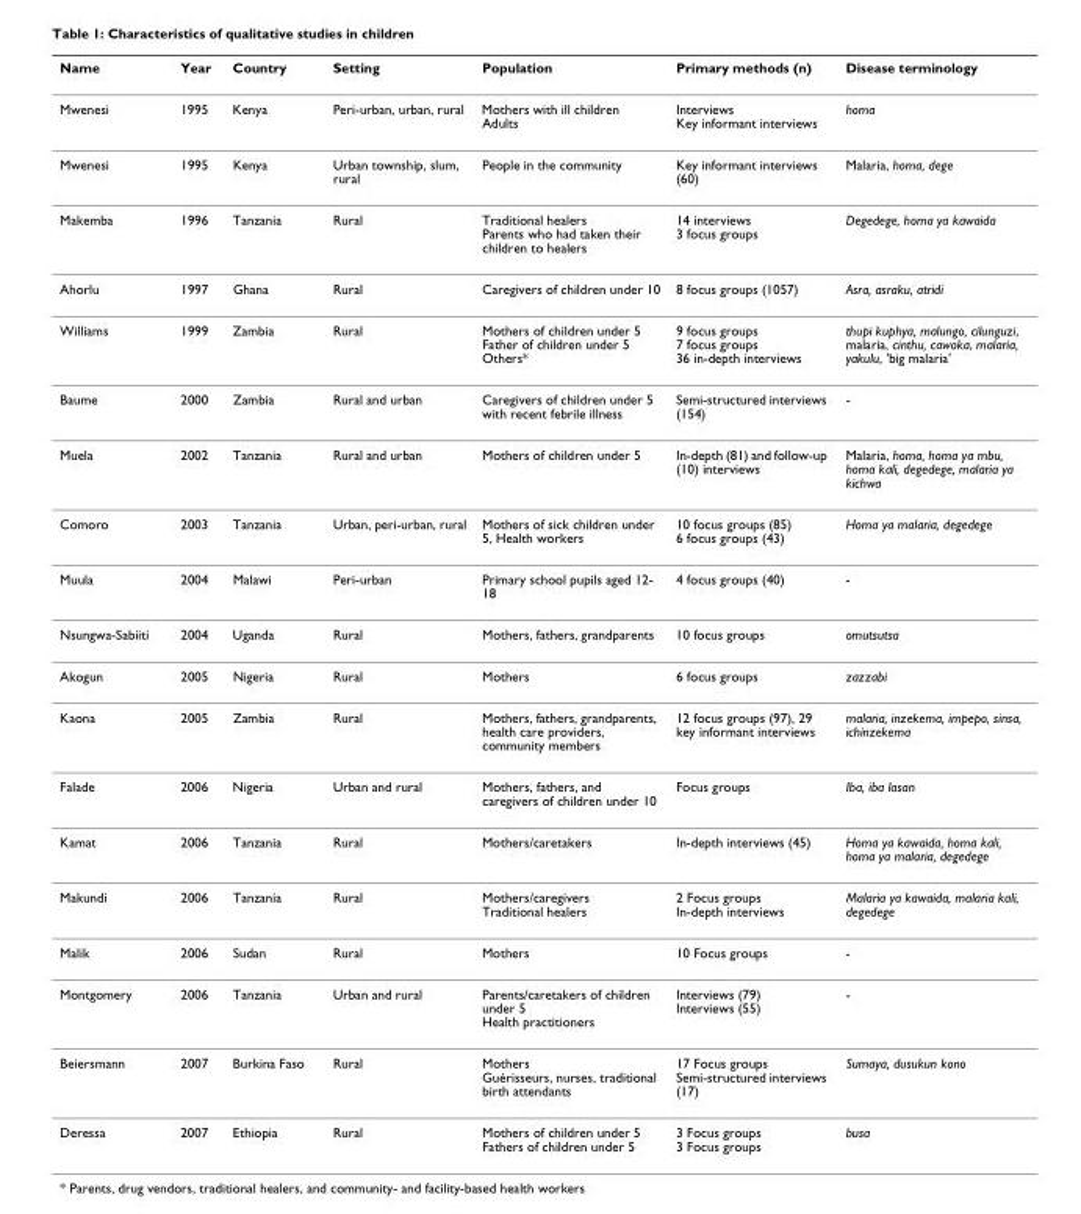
<table><thead><tr><td>Name</td><td>Year</td><td>Country</td><td>Setting</td><td>Population</td><td>Primary methods (n)</td><td>Disease terminology</td></tr></thead><tbody><tr><td>Mwenesi</td><td>1995</td><td>Kenya</td><td>Peri-urban, urban, rural</td><td>Mothers with ill children Adults</td><td>Interviews Key informant interviews</td><td>homa</td></tr><tr><td>Mwenesi</td><td>1995</td><td>Kenya</td><td>Urban township, slum, rural</td><td>People in the community</td><td>Key informant interviews (60)</td><td>Malaria, homa, dege</td></tr><tr><td>Makemba</td><td>1996</td><td>Tanzania</td><td>Rural</td><td>Traditional healers Parents who had taken their children to healers</td><td>14 interviews 3 focus groups</td><td>Degedege, homa ya kawaida</td></tr><tr><td>Ahorlu</td><td>1997</td><td>Ghana</td><td>Rural</td><td>Caregivers of children under 10</td><td>8 focus groups (1057)</td><td>Asra, asraku, atridi</td></tr><tr><td>Williams</td><td>1999</td><td>Zambia</td><td>Rural</td><td>Mothers of children under 5 Father of children under 5 Others*</td><td>9 focus groups 7 focus groups 36 in-depth interviews</td><td>thupi kuphya, malungo, cilunguzi, malaria, cinthu, cawoka, malaria, yakulu, &#x27;big malaria&#x27;</td></tr><tr><td>Baume</td><td>2000</td><td>Zambia</td><td>Rural and urban</td><td>Caregivers of children under 5 with recent febrile illness</td><td>Semi-structured interviews (154)</td><td>-</td></tr><tr><td>Muela</td><td>2002</td><td>Tanzania</td><td>Rural and urban</td><td>Mothers of children under 5</td><td>In-depth (81) and follow-up (10) interviews</td><td>Malaria, homa, homa ya mbu, homa kali, degedege, malaria ya kichwa</td></tr><tr><td>Comoro</td><td>2003</td><td>Tanzania</td><td>Urban, peri-urban, rural</td><td>Mothers of sick children under 5, Health workers</td><td>10 focus groups (85) 6 focus groups (43)</td><td>Homa ya malaria, degedege</td></tr><tr><td>Muula</td><td>2004</td><td>Malawi</td><td>Peri-urban</td><td>Primary school pupils aged 12- 18</td><td>4 focus groups (40)</td><td>-</td></tr><tr><td>Nsungwa-Sabiiti</td><td>2004</td><td>Uganda</td><td>Rural</td><td>Mothers, fathers, grandparents</td><td>10 focus groups</td><td>omutsutsa</td></tr><tr><td>Akogun</td><td>2005</td><td>Nigeria</td><td>Rural</td><td>Mothers</td><td>6 focus groups</td><td>zazzabi</td></tr><tr><td>Kaona</td><td>2005</td><td>Zambia</td><td>Rural</td><td>Mothers, fathers, grandparents, health care providers, community members</td><td>12 focus groups (97), 29 key informant interviews</td><td>malaria, inzekema, impepo, sinsa, ichinzekema</td></tr><tr><td>Falade</td><td>2006</td><td>Nigeria</td><td>Urban and rural</td><td>Mothers, fathers, and caregivers of children under 10</td><td>Focus groups</td><td>Iba, iba lasan</td></tr><tr><td>Kamat</td><td>2006</td><td>Tanzania</td><td>Rural</td><td>Mothers/caretakers</td><td>In-depth interviews (45)</td><td>Homa ya kawaida, homa kali, homa ya malaria, degedege</td></tr><tr><td>Makundi</td><td>2006</td><td>Tanzania</td><td>Rural</td><td>Mothers/caregivers Traditional healers</td><td>2 Focus groups In-depth interviews</td><td>Malaria ya kawaida, malaria kali, degedege</td></tr><tr><td>Malik</td><td>2006</td><td>Sudan</td><td>Rural</td><td>Mothers</td><td>10 Focus groups</td><td>-</td></tr><tr><td>Montgomery</td><td>2006</td><td>Tanzania</td><td>Urban and rural</td><td>Parents/caretakers of children under 5 Health practitioners</td><td>Interviews (79) Interviews (55)</td><td>-</td></tr><tr><td>Beiersmann</td><td>2007</td><td>Burkina Faso</td><td>Rural</td><td>Mothers Guérisseurs, nurses, traditional birth attendants</td><td>17 Focus groups Semi-structured interviews (17)</td><td>Sumaya, dusukun kono</td></tr><tr><td>Deressa</td><td>2007</td><td>Ethiopia</td><td>Rural</td><td>Mothers of children under 5 Fathers of children under 5</td><td>3 Focus groups 3 Focus groups</td><td>busa</td></tr></tbody></table>